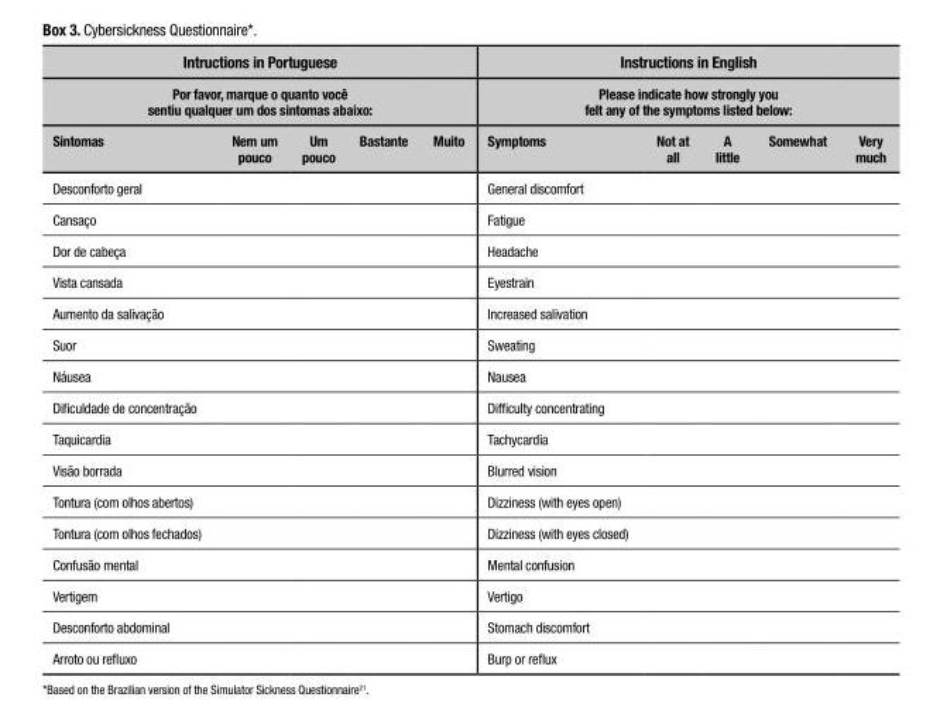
<table><thead><tr><td rowspan="2" colspan="5">Intructions in Portuguese Por favor, marque o quanto você sentiu qualquer um dos sintomas abaixo:</td><td rowspan="2" colspan="5">Instructions in English Please indicate how strongly you felt any of the symptoms listed below:</td></tr><tr></tr><tr><td>Sintomas</td><td>Nem um pouco</td><td>Um pouco</td><td>Bastante</td><td>Muito</td><td>Symptoms</td><td>Not at all</td><td>A little</td><td>Somewhat</td><td>Very much</td></tr></thead><tbody><tr><td>Desconforto geral</td><td></td><td></td><td></td><td></td><td>General discomfort</td><td></td><td></td><td></td><td></td></tr><tr><td>Cansaço</td><td></td><td></td><td></td><td></td><td>Fatigue</td><td></td><td></td><td></td><td></td></tr><tr><td>Dor de cabeça</td><td></td><td></td><td></td><td></td><td>Headache</td><td></td><td></td><td></td><td></td></tr><tr><td>Vista cansada</td><td></td><td></td><td></td><td></td><td>Eyestrain</td><td></td><td></td><td></td><td></td></tr><tr><td>Aumento da salivação</td><td></td><td></td><td></td><td></td><td>Increased salivation</td><td></td><td></td><td></td><td></td></tr><tr><td>Suor</td><td></td><td></td><td></td><td></td><td>Sweating</td><td></td><td></td><td></td><td></td></tr><tr><td>Náusea</td><td></td><td></td><td></td><td></td><td>Nausea</td><td></td><td></td><td></td><td></td></tr><tr><td>Dificuldade de concentração</td><td></td><td></td><td></td><td></td><td>Difficulty concentrating</td><td></td><td></td><td></td><td></td></tr><tr><td>Taquicardia</td><td></td><td></td><td></td><td></td><td>Tachycardia</td><td></td><td></td><td></td><td></td></tr><tr><td>Visão borrada</td><td></td><td></td><td></td><td></td><td>Blurred vision</td><td></td><td></td><td></td><td></td></tr><tr><td>Tontura (com olhos abertos)</td><td></td><td></td><td></td><td></td><td>Dizziness (with eyes open)</td><td></td><td></td><td></td><td></td></tr><tr><td colspan="5">Tontura (com olhos fechados)</td><td>Dizziness (with eyes closed)</td><td></td><td></td><td></td><td></td></tr><tr><td>Confusão mental</td><td></td><td></td><td></td><td></td><td>Mental confusion</td><td></td><td></td><td></td><td></td></tr><tr><td>Vertigem</td><td></td><td></td><td></td><td></td><td>Vertigo</td><td></td><td></td><td></td><td></td></tr><tr><td>Desconforto abdominal</td><td></td><td></td><td></td><td></td><td>Stomach discomfort</td><td></td><td></td><td></td><td></td></tr><tr><td>Arroto ou refluxo</td><td></td><td></td><td></td><td></td><td>Burp or reflux</td><td></td><td></td><td></td><td></td></tr></tbody></table>